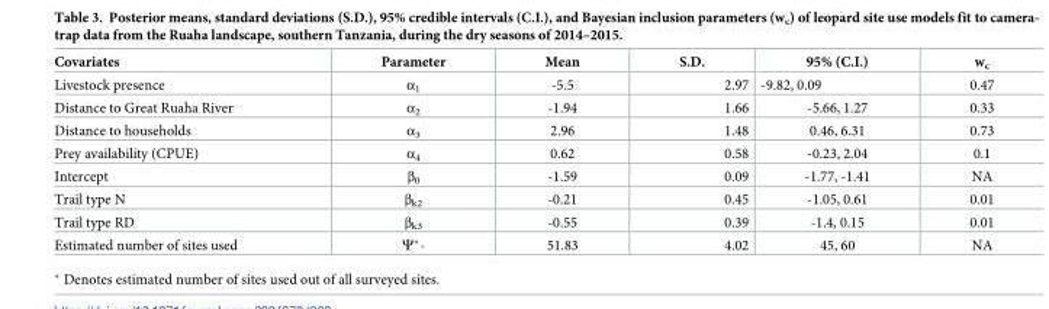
<table><thead><tr><td>Covariates</td><td>Parameter</td><td>Mean</td><td>S.D.</td><td>95% (C.I.)</td><td>w<sub>c</sub></td></tr></thead><tbody><tr><td>Livestock presence</td><td>α<sub>1</sub></td><td>-5.5</td><td>2.97</td><td>-9.82, 0.09</td><td>0.47</td></tr><tr><td>Distance to Great Ruaha River</td><td>α<sub>2</sub></td><td>-1.94</td><td>1.66</td><td>-5.66, 1.27</td><td>0.33</td></tr><tr><td>Distance to households</td><td>α<sub>3</sub></td><td>2.96</td><td>1.48</td><td>0.46, 6.31</td><td>0.73</td></tr><tr><td>Prey availability (CPUE)</td><td>α<sub>4</sub></td><td>0.62</td><td>0.58</td><td>-0.23, 2.04</td><td>0.1</td></tr><tr><td>Intercept</td><td>β<sub>0</sub></td><td>-1.59</td><td>0.09</td><td>-1.77, -1.41</td><td>NA</td></tr><tr><td>Trail type N</td><td>β<sub>k2</sub></td><td>-0.21</td><td>0.45</td><td>-1.05, 0.61</td><td>0.01</td></tr><tr><td>Trail type RD</td><td>β<sub>k3</sub></td><td>-0.55</td><td>0.39</td><td>-1.4, 0.15</td><td>0.01</td></tr><tr><td>Estimated number of sites used</td><td>Ψ*-</td><td>51.83</td><td>4.02</td><td>45, 60</td><td>NA</td></tr></tbody></table>